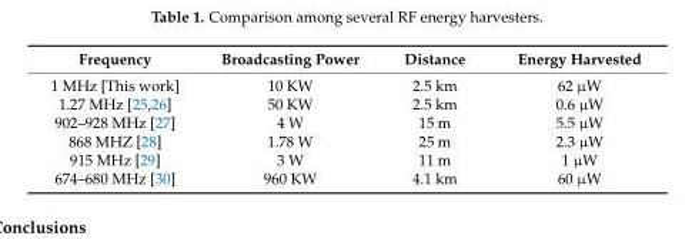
<table><thead><tr><td>Frequency</td><td>Broadcasting Power</td><td>Distance</td><td>Energy Harvested</td></tr></thead><tbody><tr><td>1 MHz [This work]</td><td>10 KW</td><td>2.5 km</td><td>62 µW</td></tr><tr><td>1.27 MHz [25,26]</td><td>50 KW</td><td>2.5 km</td><td>0.6 µW</td></tr><tr><td>902–928 MHz [27]</td><td>4 W</td><td>15 m</td><td>5.5 µW</td></tr><tr><td>868 MHZ [28]</td><td>1.78 W</td><td>25 m</td><td>2.3 µW</td></tr><tr><td>915 MHz [29]</td><td>3 W</td><td>11 m</td><td>1 µW</td></tr><tr><td>674–680 MHz [30]</td><td>960 KW</td><td>4.1 km</td><td>60 µW</td></tr></tbody></table>